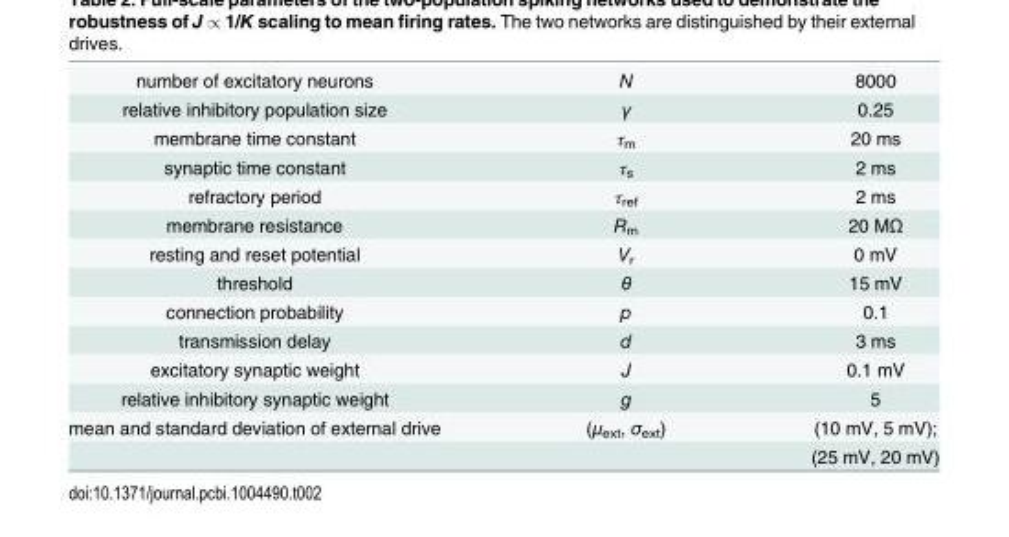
<table><tbody><tr><td>number of excitatory neurons</td><td>N</td><td>8000</td></tr><tr><td>relative inhibitory population size</td><td>γ</td><td>0.25</td></tr><tr><td>membrane time constant</td><td>τ<sub>m</sub></td><td>20 ms</td></tr><tr><td>synaptic time constant</td><td>τ<sub>s</sub></td><td>2 ms</td></tr><tr><td>refractory period</td><td>τ<sub>ref</sub></td><td>2 ms</td></tr><tr><td>membrane resistance</td><td>R<sub>m</sub></td><td>20 MΩ</td></tr><tr><td>resting and reset potential</td><td>V<sub>r</sub></td><td>0 mV</td></tr><tr><td>threshold</td><td>θ</td><td>15 mV</td></tr><tr><td>connection probability</td><td>p</td><td>0.1</td></tr><tr><td>transmission delay</td><td>d</td><td>3 ms</td></tr><tr><td>excitatory synaptic weight</td><td>J</td><td>0.1 mV</td></tr><tr><td>relative inhibitory synaptic weight</td><td>g</td><td>5</td></tr><tr><td rowspan="2">mean and standard deviation of external drive</td><td>(μ<sub>ext</sub>, σ<sub>ext</sub>)</td><td>(10 mV, 5 mV);</td></tr><tr><td></td><td>(25 mV, 20 mV)</td></tr></tbody></table>